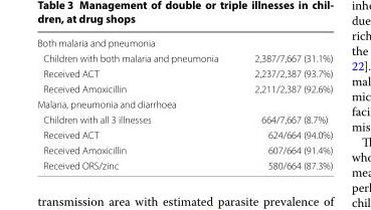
<table><tbody><tr><td colspan="2">Both malaria and pneumonia</td></tr><tr><td>Children with both malaria and pneumonia</td><td>2,387/7,667 (31.1%)</td></tr><tr><td>Received ACT</td><td>2,237/2,387 (93.7%)</td></tr><tr><td>Received Amoxicillin</td><td>2,211/2,387 (92.6%)</td></tr><tr><td colspan="2">Malaria, pneumonia and diarrhoea</td></tr><tr><td>Children with all 3 illnesses</td><td>664/7,667 (8.7%)</td></tr><tr><td>Received ACT</td><td>624/664 (94.0%)</td></tr><tr><td>Received Amoxicillin</td><td>607/664 (91.4%)</td></tr><tr><td>Received ORS/zinc</td><td>580/664 (87.3%)</td></tr></tbody></table>